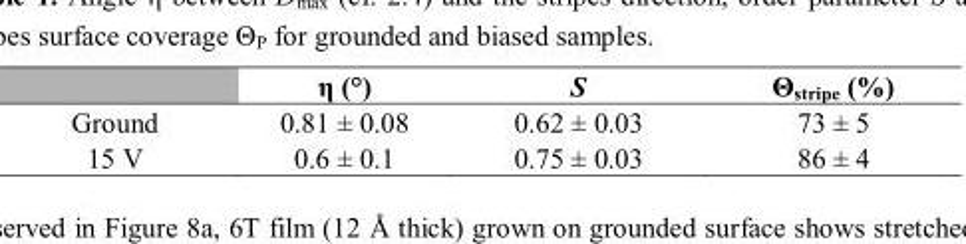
<table><thead><tr><td></td><td>η (°)</td><td>S</td><td>Θ<sub>stripe</sub> (%)</td></tr></thead><tbody><tr><td>Ground</td><td>0.81 ± 0.08</td><td>0.62 ± 0.03</td><td>73 ± 5</td></tr><tr><td>15 V</td><td>0.6 ± 0.1</td><td>0.75 ± 0.03</td><td>86 ± 4</td></tr></tbody></table>